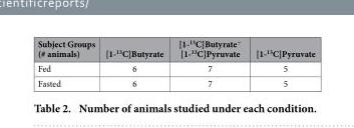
<table><thead><tr><td>Subject Groups (# animals)</td><td>[1-<sup>13</sup>C]Butyrate</td><td>[1-<sup>13</sup>C]Butyrate<sup>+</sup> [1-<sup>13</sup>C]Pyruvate</td><td>[1-<sup>13</sup>C]Pyruvate</td></tr></thead><tbody><tr><td>Fed</td><td>6</td><td>7</td><td>5</td></tr><tr><td>Fasted</td><td>6</td><td>7</td><td>5</td></tr></tbody></table>